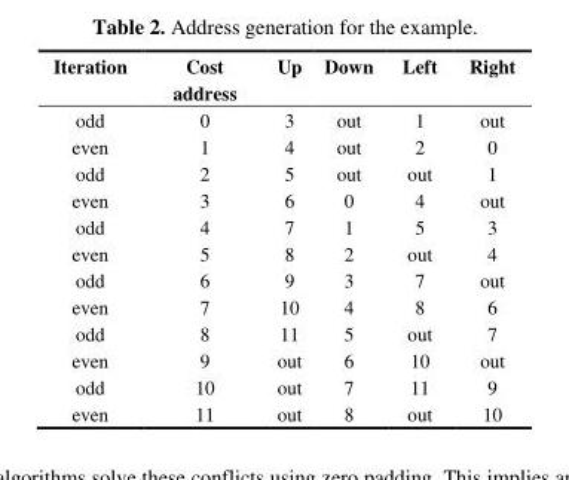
<table><thead><tr><td>Iteration</td><td>Cost address</td><td>Up</td><td>Down</td><td>Left</td><td>Right</td></tr></thead><tbody><tr><td>odd</td><td>0</td><td>3</td><td>out</td><td>1</td><td>out</td></tr><tr><td>even</td><td>1</td><td>4</td><td>out</td><td>2</td><td>0</td></tr><tr><td>odd</td><td>2</td><td>5</td><td>out</td><td>out</td><td>1</td></tr><tr><td>even</td><td>3</td><td>6</td><td>0</td><td>4</td><td>out</td></tr><tr><td>odd</td><td>4</td><td>7</td><td>1</td><td>5</td><td>3</td></tr><tr><td>even</td><td>5</td><td>8</td><td>2</td><td>out</td><td>4</td></tr><tr><td>odd</td><td>6</td><td>9</td><td>3</td><td>7</td><td>out</td></tr><tr><td>even</td><td>7</td><td>10</td><td>4</td><td>8</td><td>6</td></tr><tr><td>odd</td><td>8</td><td>11</td><td>5</td><td>out</td><td>7</td></tr><tr><td>even</td><td>9</td><td>out</td><td>6</td><td>10</td><td>out</td></tr><tr><td>odd</td><td>10</td><td>out</td><td>7</td><td>11</td><td>9</td></tr><tr><td>even</td><td>11</td><td>out</td><td>8</td><td>out</td><td>10</td></tr></tbody></table>